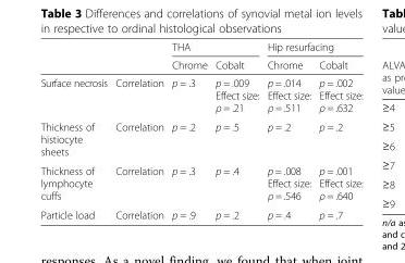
<table><thead><tr><td rowspan="2"></td><td rowspan="2"></td><td colspan="2">THA</td><td colspan="2">Hip resurfacing</td></tr><tr><td>Chrome</td><td>Cobalt</td><td>Chrome</td><td>Cobalt</td></tr></thead><tbody><tr><td>Surface necrosis</td><td>Correlation</td><td>p = .3</td><td>p = .009 Effect size: ρ = .21</td><td>p = .014 Effect size: ρ = .511</td><td>p = .002 Effect size: ρ = .632</td></tr><tr><td>Thickness of histiocyte sheets</td><td>Correlation</td><td>p = .2</td><td>p = .5</td><td>p = .2</td><td>p = .2</td></tr><tr><td>Thickness of lymphocyte cuffs</td><td>Correlation</td><td>p = .3</td><td>p = .4</td><td>p = .008 Effect size: ρ = .546</td><td>p = .001 Effect size: ρ = .640</td></tr><tr><td>Particle load</td><td>Correlation</td><td>p = .9</td><td>p = .2</td><td>p = .4</td><td>p = .7</td></tr></tbody></table>